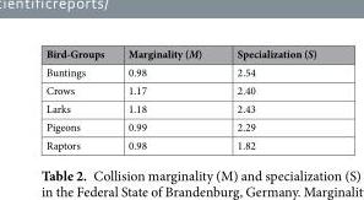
<table><thead><tr><td>Bird-Groups</td><td>Marginality (M)</td><td>Specialization (S)</td></tr></thead><tbody><tr><td>Buntings</td><td>0.98</td><td>2.54</td></tr><tr><td>Crows</td><td>1.17</td><td>2.40</td></tr><tr><td>Larks</td><td>1.18</td><td>2.43</td></tr><tr><td>Pigeons</td><td>0.99</td><td>2.29</td></tr><tr><td>Raptors</td><td>0.98</td><td>1.82</td></tr></tbody></table>